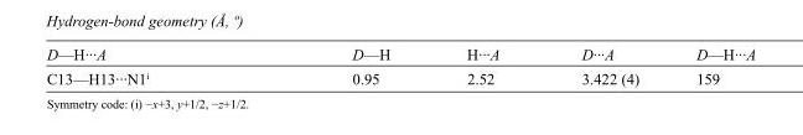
<table><tbody><tr><td>D—H···A</td><td>D—H</td><td>H···A</td><td>D···A</td><td>D—H···A</td></tr><tr><td>C13—H13···N1<sup>i</sup></td><td>0.95</td><td>2.52</td><td>3.422 (4)</td><td>159</td></tr></tbody></table>